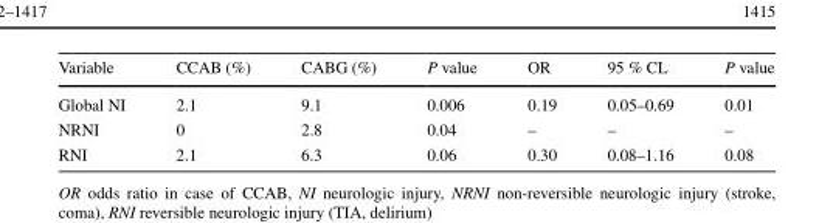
<table><thead><tr><td>Variable</td><td>CCAB (%)</td><td>CABG (%)</td><td>P value</td><td>OR</td><td>95 % CL</td><td>P value</td></tr></thead><tbody><tr><td>Global NI</td><td>2.1</td><td>9.1</td><td>0.006</td><td>0.19</td><td>0.05–0.69</td><td>0.01</td></tr><tr><td>NRNI</td><td>0</td><td>2.8</td><td>0.04</td><td>–</td><td>–</td><td>–</td></tr><tr><td>RNI</td><td>2.1</td><td>6.3</td><td>0.06</td><td>0.30</td><td>0.08–1.16</td><td>0.08</td></tr></tbody></table>